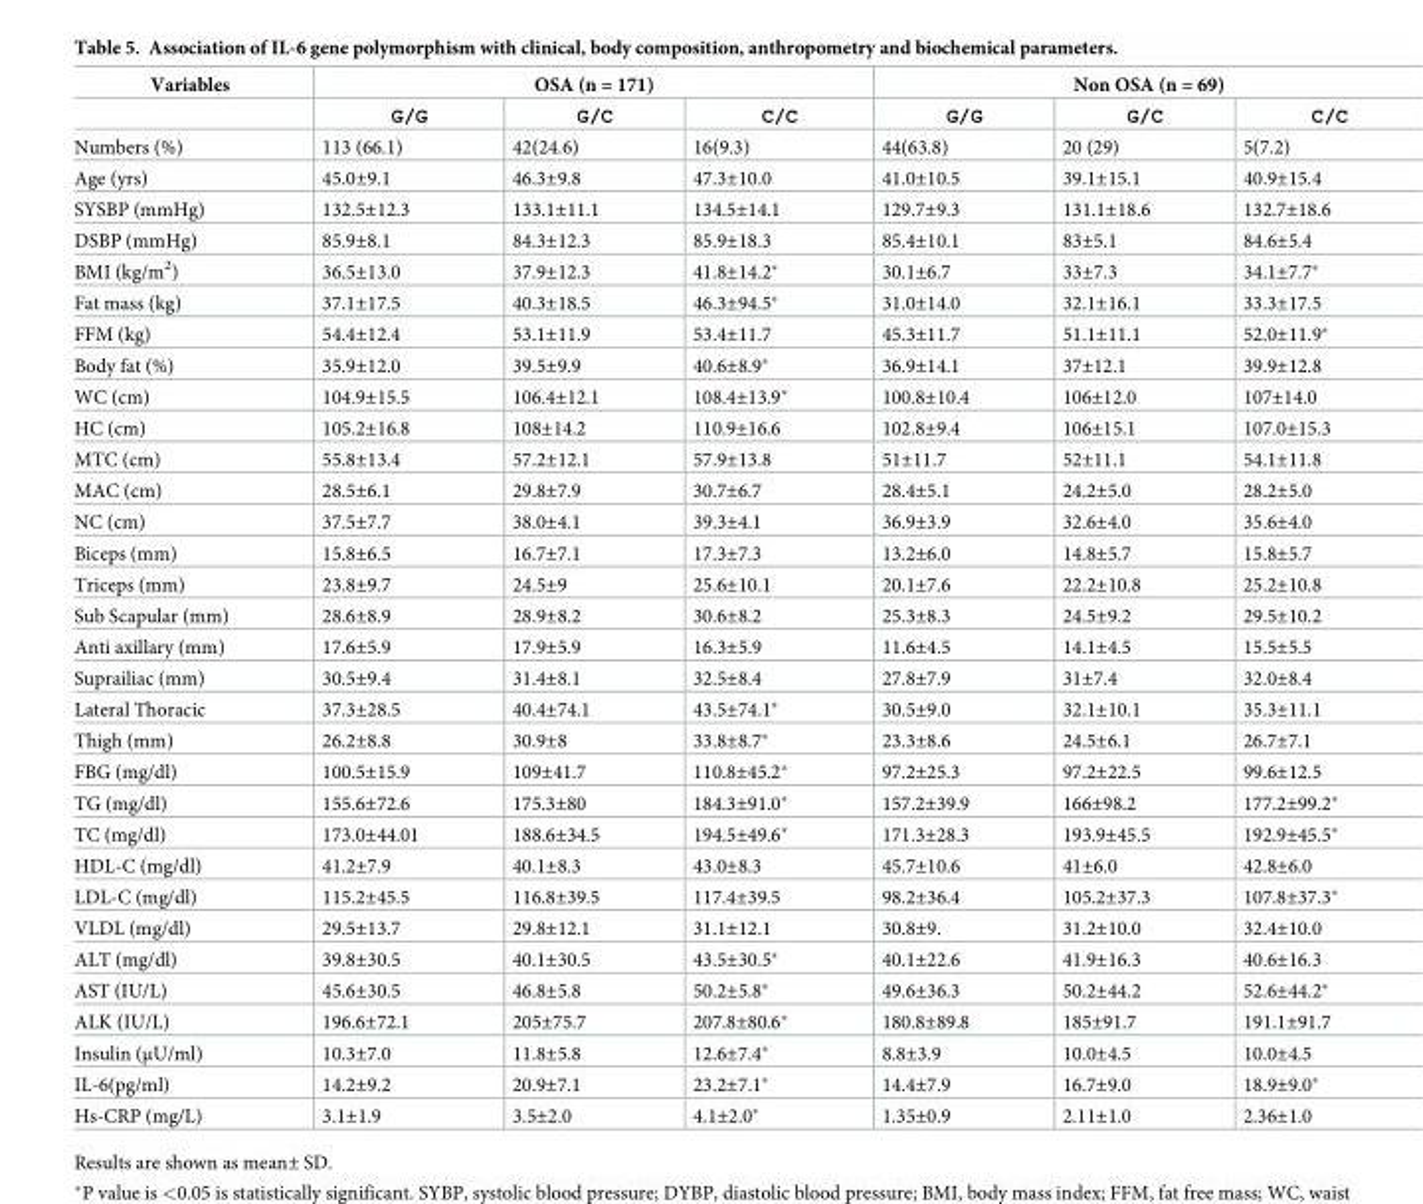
<table><thead><tr><td rowspan="2">Variables</td><td colspan="3">OSA (n = 171)</td><td colspan="3">Non OSA (n = 69)</td></tr><tr><td>G/G</td><td>G/C</td><td>C/C</td><td>G/G</td><td>G/C</td><td>C/C</td></tr></thead><tbody><tr><td>Numbers (%)</td><td>113 (66.1)</td><td>42(24.6)</td><td>16(9.3)</td><td>44(63.8)</td><td>20 (29)</td><td>5(7.2)</td></tr><tr><td>Age (yrs)</td><td>45.0±9.1</td><td>46.3±9.8</td><td>47.3±10.0</td><td>41.0±10.5</td><td>39.1±15.1</td><td>40.9±15.4</td></tr><tr><td>SYSBP (mmHg)</td><td>132.5±12.3</td><td>133.1±11.1</td><td>134.5±14.1</td><td>129.7±9.3</td><td>131.1±18.6</td><td>132.7±18.6</td></tr><tr><td>DSBP (mmHg)</td><td>85.9±8.1</td><td>84.3±12.3</td><td>85.9±18.3</td><td>85.4±10.1</td><td>83±5.1</td><td>84.6±5.4</td></tr><tr><td>BMI (kg/m<sup>2</sup>)</td><td>36.5±13.0</td><td>37.9±12.3</td><td>41.8±14.2*</td><td>30.1±6.7</td><td>33±7.3</td><td>34.1±7.7*</td></tr><tr><td>Fat mass (kg)</td><td>37.1±17.5</td><td>40.3±18.5</td><td>46.3±94.5*</td><td>31.0±14.0</td><td>32.1±16.1</td><td>33.3±17.5</td></tr><tr><td>FFM (kg)</td><td>54.4±12.4</td><td>53.1±11.9</td><td>53.4±11.7</td><td>45.3±11.7</td><td>51.1±11.1</td><td>52.0±11.9*</td></tr><tr><td>Body fat (%)</td><td>35.9±12.0</td><td>39.5±9.9</td><td>40.6±8.9*</td><td>36.9±14.1</td><td>37±12.1</td><td>39.9±12.8</td></tr><tr><td>WC (cm)</td><td>104.9±15.5</td><td>106.4±12.1</td><td>108.4±13.9*</td><td>100.8±10.4</td><td>106±12.0</td><td>107±14.0</td></tr><tr><td>HC (cm)</td><td>105.2±16.8</td><td>108±14.2</td><td>110.9±16.6</td><td>102.8±9.4</td><td>106±15.1</td><td>107.0±15.3</td></tr><tr><td>MTC (cm)</td><td>55.8±13.4</td><td>57.2±12.1</td><td>57.9±13.8</td><td>51±11.7</td><td>52±11.1</td><td>54.1±11.8</td></tr><tr><td>MAC (cm)</td><td>28.5±6.1</td><td>29.8±7.9</td><td>30.7±6.7</td><td>28.4±5.1</td><td>24.2±5.0</td><td>28.2±5.0</td></tr><tr><td>NC (cm)</td><td>37.5±7.7</td><td>38.0±4.1</td><td>39.3±4.1</td><td>36.9±3.9</td><td>32.6±4.0</td><td>35.6±4.0</td></tr><tr><td>Biceps (mm)</td><td>15.8±6.5</td><td>16.7±7.1</td><td>17.3±7.3</td><td>13.2±6.0</td><td>14.8±5.7</td><td>15.8±5.7</td></tr><tr><td>Triceps (mm)</td><td>23.8±9.7</td><td>24.5±9</td><td>25.6±10.1</td><td>20.1±7.6</td><td>22.2±10.8</td><td>25.2±10.8</td></tr><tr><td>Sub Scapular (mm)</td><td>28.6±8.9</td><td>28.9±8.2</td><td>30.6±8.2</td><td>25.3±8.3</td><td>24.5±9.2</td><td>29.5±10.2</td></tr><tr><td>Anti axillary (mm)</td><td>17.6±5.9</td><td>17.9±5.9</td><td>16.3±5.9</td><td>11.6±4.5</td><td>14.1±4.5</td><td>15.5±5.5</td></tr><tr><td>Suprailiac (mm)</td><td>30.5±9.4</td><td>31.4±8.1</td><td>32.5±8.4</td><td>27.8±7.9</td><td>31±7.4</td><td>32.0±8.4</td></tr><tr><td>Lateral Thoracic</td><td>37.3±28.5</td><td>40.4±74.1</td><td>43.5±74.1*</td><td>30.5±9.0</td><td>32.1±10.1</td><td>35.3±11.1</td></tr><tr><td>Thigh (mm)</td><td>26.2±8.8</td><td>30.9±8</td><td>33.8±8.7*</td><td>23.3±8.6</td><td>24.5±6.1</td><td>26.7±7.1</td></tr><tr><td>FBG (mg/dl)</td><td>100.5±15.9</td><td>109±41.7</td><td>110.8±45.2*</td><td>97.2±25.3</td><td>97.2±22.5</td><td>99.6±12.5</td></tr><tr><td>TG (mg/dl)</td><td>155.6±72.6</td><td>175.3±80</td><td>184.3±91.0*</td><td>157.2±39.9</td><td>166±98.2</td><td>177.2±99.2*</td></tr><tr><td>TC (mg/dl)</td><td>173.0±44.01</td><td>188.6±34.5</td><td>194.5±49.6*</td><td>171.3±28.3</td><td>193.9±45.5</td><td>192.9±45.5*</td></tr><tr><td>HDL-C (mg/dl)</td><td>41.2±7.9</td><td>40.1±8.3</td><td>43.0±8.3</td><td>45.7±10.6</td><td>41±6.0</td><td>42.8±6.0</td></tr><tr><td>LDL-C (mg/dl)</td><td>115.2±45.5</td><td>116.8±39.5</td><td>117.4±39.5</td><td>98.2±36.4</td><td>105.2±37.3</td><td>107.8±37.3*</td></tr><tr><td>VLDL (mg/dl)</td><td>29.5±13.7</td><td>29.8±12.1</td><td>31.1±12.1</td><td>30.8±9.</td><td>31.2±10.0</td><td>32.4±10.0</td></tr><tr><td>ALT (mg/dl)</td><td>39.8±30.5</td><td>40.1±30.5</td><td>43.5±30.5*</td><td>40.1±22.6</td><td>41.9±16.3</td><td>40.6±16.3</td></tr><tr><td>AST (IU/L)</td><td>45.6±30.5</td><td>46.8±5.8</td><td>50.2±5.8*</td><td>49.6±36.3</td><td>50.2±44.2</td><td>52.6±44.2*</td></tr><tr><td>ALK (IU/L)</td><td>196.6±72.1</td><td>205±75.7</td><td>207.8±80.6*</td><td>180.8±89.8</td><td>185±91.7</td><td>191.1±91.7</td></tr><tr><td>Insulin (μU/ml)</td><td>10.3±7.0</td><td>11.8±5.8</td><td>12.6±7.4*</td><td>8.8±3.9</td><td>10.0±4.5</td><td>10.0±4.5</td></tr><tr><td>IL-6(pg/ml)</td><td>14.2±9.2</td><td>20.9±7.1</td><td>23.2±7.1*</td><td>14.4±7.9</td><td>16.7±9.0</td><td>18.9±9.0*</td></tr><tr><td>Hs-CRP (mg/L)</td><td>3.1±1.9</td><td>3.5±2.0</td><td>4.1±2.0*</td><td>1.35±0.9</td><td>2.11±1.0</td><td>2.36±1.0</td></tr></tbody></table>